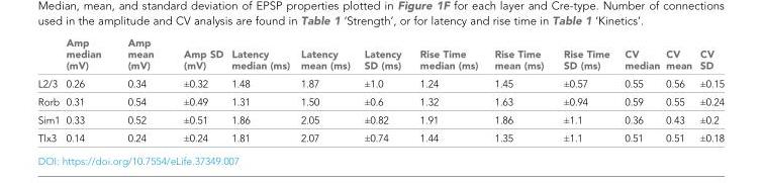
<table><thead><tr><td></td><td>Amp median (mV)</td><td>Amp mean (mV)</td><td>Amp SD (mV)</td><td>Latency median (ms)</td><td>Latency mean (ms)</td><td>Latency SD (ms)</td><td>Rise Time median (ms)</td><td>Rise Time mean (ms)</td><td>Rise Time SD (ms)</td><td>CV median</td><td>CV mean</td><td>CV SD</td></tr></thead><tbody><tr><td>L2/3</td><td>0.26</td><td>0.34</td><td>±0.32</td><td>1.48</td><td>1.87</td><td>±1.0</td><td>1.24</td><td>1.45</td><td>±0.57</td><td>0.55</td><td>0.56</td><td>±0.15</td></tr><tr><td>Rorb</td><td>0.31</td><td>0.54</td><td>±0.49</td><td>1.31</td><td>1.50</td><td>±0.6</td><td>1.32</td><td>1.63</td><td>±0.94</td><td>0.59</td><td>0.55</td><td>±0.24</td></tr><tr><td>Sim1</td><td>0.33</td><td>0.52</td><td>±0.51</td><td>1.86</td><td>2.05</td><td>±0.82</td><td>1.91</td><td>1.86</td><td>±1.1</td><td>0.36</td><td>0.43</td><td>±0.2</td></tr><tr><td>Tlx3</td><td>0.14</td><td>0.24</td><td>±0.24</td><td>1.81</td><td>2.07</td><td>±0.74</td><td>1.44</td><td>1.35</td><td>±1.1</td><td>0.51</td><td>0.51</td><td>±0.18</td></tr></tbody></table>